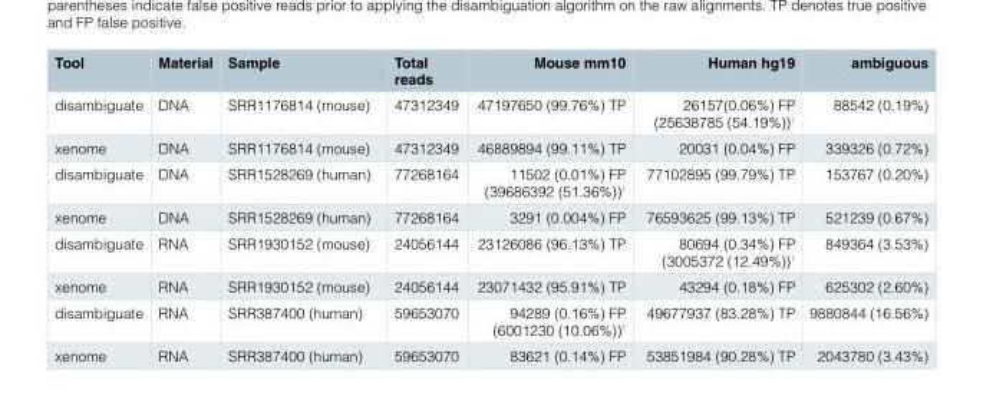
<table><thead><tr><td>Tool</td><td>Material</td><td>Sample</td><td>Total reads</td><td>Mouse mm10</td><td>Human hg19</td><td>ambiguous</td></tr></thead><tbody><tr><td>disambiguate</td><td>DNA</td><td>SRR1176814 (mouse)</td><td>47312349</td><td>47197650 (99.76%) TP</td><td>26157(0.06%) FP (25638785 (54.19%))<sup>†</sup></td><td>88542 (0.19%)</td></tr><tr><td>xenome</td><td>DNA</td><td>SRR1176814 (mouse)</td><td>47312349</td><td>46889894 (99.11%) TP</td><td>20031 (0.04%) FP</td><td>339326 (0.72%)</td></tr><tr><td>disambiguate</td><td>DNA</td><td>SRR1528269 (human)</td><td>77268164</td><td>11502 (0.01%) FP (39686392 (51.36%))<sup>†</sup></td><td>77102895 (99.79%) TP</td><td>153767 (0.20%)</td></tr><tr><td>xenome</td><td>DNA</td><td>SRR1528269 (human)</td><td>77268164</td><td>3291 (0.004%) FP</td><td>76593625 (99.13%) TP</td><td>521239 (0.67%)</td></tr><tr><td>disambiguate</td><td>RNA</td><td>SRR1930152 (mouse)</td><td>24056144</td><td>23126086 (96.13%) TP</td><td>80694 (0.34%) FP (3005372 (12.49%))<sup>†</sup></td><td>849364 (3.53%)</td></tr><tr><td>xenome</td><td>RNA</td><td>SRR1930152 (mouse)</td><td>24056144</td><td>23071432 (95.91%) TP</td><td>43294 (0.18%) FP</td><td>625302 (2.60%)</td></tr><tr><td>disambiguate</td><td>RNA</td><td>SRR387400 (human)</td><td>59653070</td><td>94289 (0.16%) FP (6001230 (10.06%))<sup>†</sup></td><td>49677937 (83.28%) TP</td><td>9880844 (16.56%)</td></tr><tr><td>xenome</td><td>RNA</td><td>SRR387400 (human)</td><td>59653070</td><td>83621 (0.14%) FP</td><td>53851984 (90.28%) TP</td><td>2043780 (3.43%)</td></tr></tbody></table>